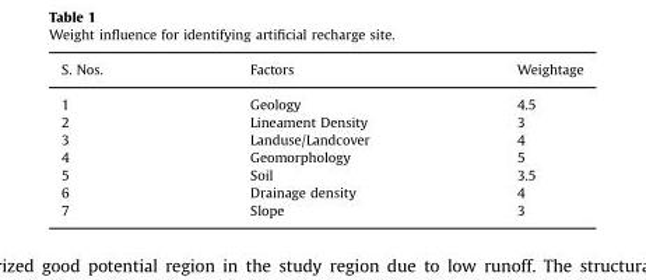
<table><thead><tr><td>S. Nos.</td><td>Factors</td><td>Weightage</td></tr></thead><tbody><tr><td>1</td><td>Geology</td><td>4.5</td></tr><tr><td>2</td><td>Lineament Density</td><td>3</td></tr><tr><td>3</td><td>Landuse/Landcover</td><td>4</td></tr><tr><td>4</td><td>Geomorphology</td><td>5</td></tr><tr><td>5</td><td>Soil</td><td>3.5</td></tr><tr><td>6</td><td>Drainage density</td><td>4</td></tr><tr><td>7</td><td>Slope</td><td>3</td></tr></tbody></table>